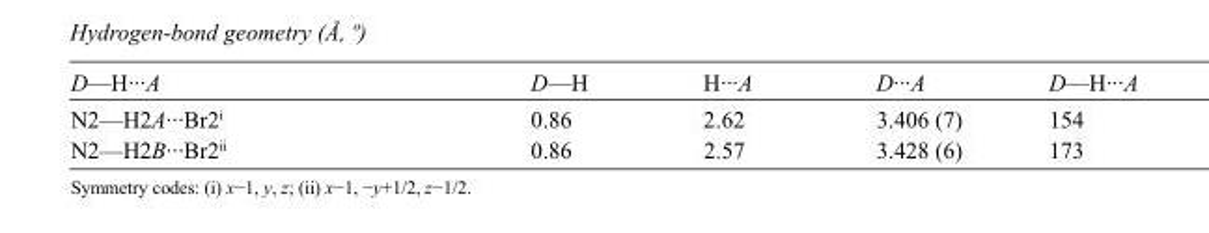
<table><tbody><tr><td>D—H···A</td><td>D—H</td><td>H···A</td><td>D···A</td><td>D—H···A</td></tr><tr><td>N2—H2A···Br2<sup>i</sup></td><td>0.86</td><td>2.62</td><td>3.406 (7)</td><td>154</td></tr><tr><td>N2—H2B···Br2<sup>ii</sup></td><td>0.86</td><td>2.57</td><td>3.428 (6)</td><td>173</td></tr></tbody></table>